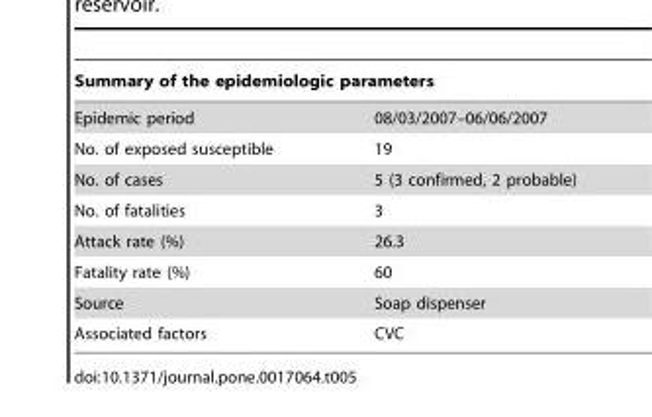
<table><thead><tr><td colspan="2">Summary of the epidemiologic parameters</td></tr><tr><td>Epidemic period</td><td>08/03/2007–06/06/2007</td></tr></thead><tbody><tr><td>No. of exposed susceptible</td><td>19</td></tr><tr><td>No. of cases</td><td>5 (3 confirmed, 2 probable)</td></tr><tr><td>No. of fatalities</td><td>3</td></tr><tr><td>Attack rate (%)</td><td>26.3</td></tr><tr><td>Fatality rate (%)</td><td>60</td></tr><tr><td>Source</td><td>Soap dispenser</td></tr><tr><td>Associated factors</td><td>CVC</td></tr></tbody></table>